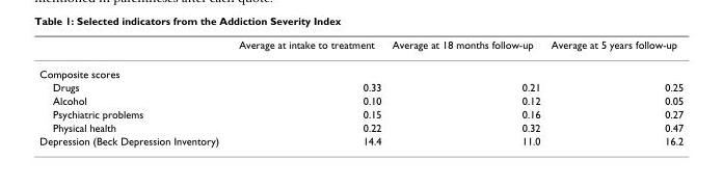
<table><thead><tr><td></td><td>Average at intake to treatment</td><td>Average at 18 months follow-up</td><td>Average at 5 years follow-up</td></tr></thead><tbody><tr><td colspan="4">Composite scores</td></tr><tr><td>Drugs</td><td>0.33</td><td>0.21</td><td>0.25</td></tr><tr><td>Alcohol</td><td>0.10</td><td>0.12</td><td>0.05</td></tr><tr><td>Psychiatric problems</td><td>0.15</td><td>0.16</td><td>0.27</td></tr><tr><td>Physical health</td><td>0.22</td><td>0.32</td><td>0.47</td></tr><tr><td>Depression (Beck Depression Inventory)</td><td>14.4</td><td>11.0</td><td>16.2</td></tr></tbody></table>